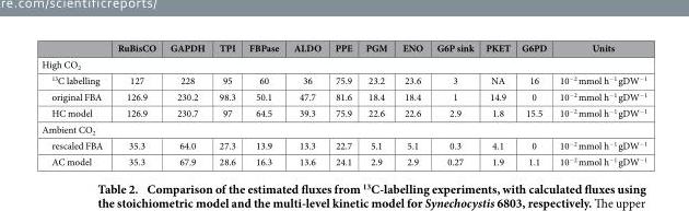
<table><thead><tr><td></td><td>RuBisCO</td><td>GAPDH</td><td>TPI</td><td>FBPase</td><td>ALDO</td><td>PPE</td><td>PGM</td><td>ENO</td><td>G6P sink</td><td>PKET</td><td>G6PD</td><td>Units</td></tr></thead><tbody><tr><td colspan="13">High CO<sub>2</sub></td></tr><tr><td><sup>13</sup>C labelling</td><td>127</td><td>228</td><td>95</td><td>60</td><td>36</td><td>75.9</td><td>23.2</td><td>23.6</td><td>3</td><td>NA</td><td>16</td><td>10<sup>−2</sup> mmol h<sup>−1</sup> gDW<sup>−1</sup></td></tr><tr><td>original FBA</td><td>126.9</td><td>230.2</td><td>98.3</td><td>50.1</td><td>47.7</td><td>81.6</td><td>18.4</td><td>18.4</td><td>1</td><td>14.9</td><td>0</td><td>10<sup>−2</sup> mmol h<sup>−1</sup> gDW<sup>−1</sup></td></tr><tr><td>HC model</td><td>126.9</td><td>230.7</td><td>97</td><td>64.5</td><td>39.3</td><td>75.9</td><td>22.6</td><td>22.6</td><td>2.9</td><td>1.8</td><td>15.5</td><td>10<sup>−2</sup> mmol h<sup>−1</sup> gDW<sup>−1</sup></td></tr><tr><td colspan="13">Ambient CO<sub>2</sub></td></tr><tr><td>rescaled FBA</td><td>35.3</td><td>64.0</td><td>27.3</td><td>13.9</td><td>13.3</td><td>22.7</td><td>5.1</td><td>5.1</td><td>0.3</td><td>4.1</td><td>0</td><td>10<sup>−2</sup> mmol h<sup>−1</sup> gDW<sup>−1</sup></td></tr><tr><td>AC model</td><td>35.3</td><td>67.9</td><td>28.6</td><td>16.3</td><td>13.6</td><td>24.1</td><td>2.9</td><td>2.9</td><td>0.27</td><td>1.9</td><td>1.1</td><td>10<sup>−2</sup> mmol h<sup>−1</sup> gDW<sup>−1</sup></td></tr></tbody></table>